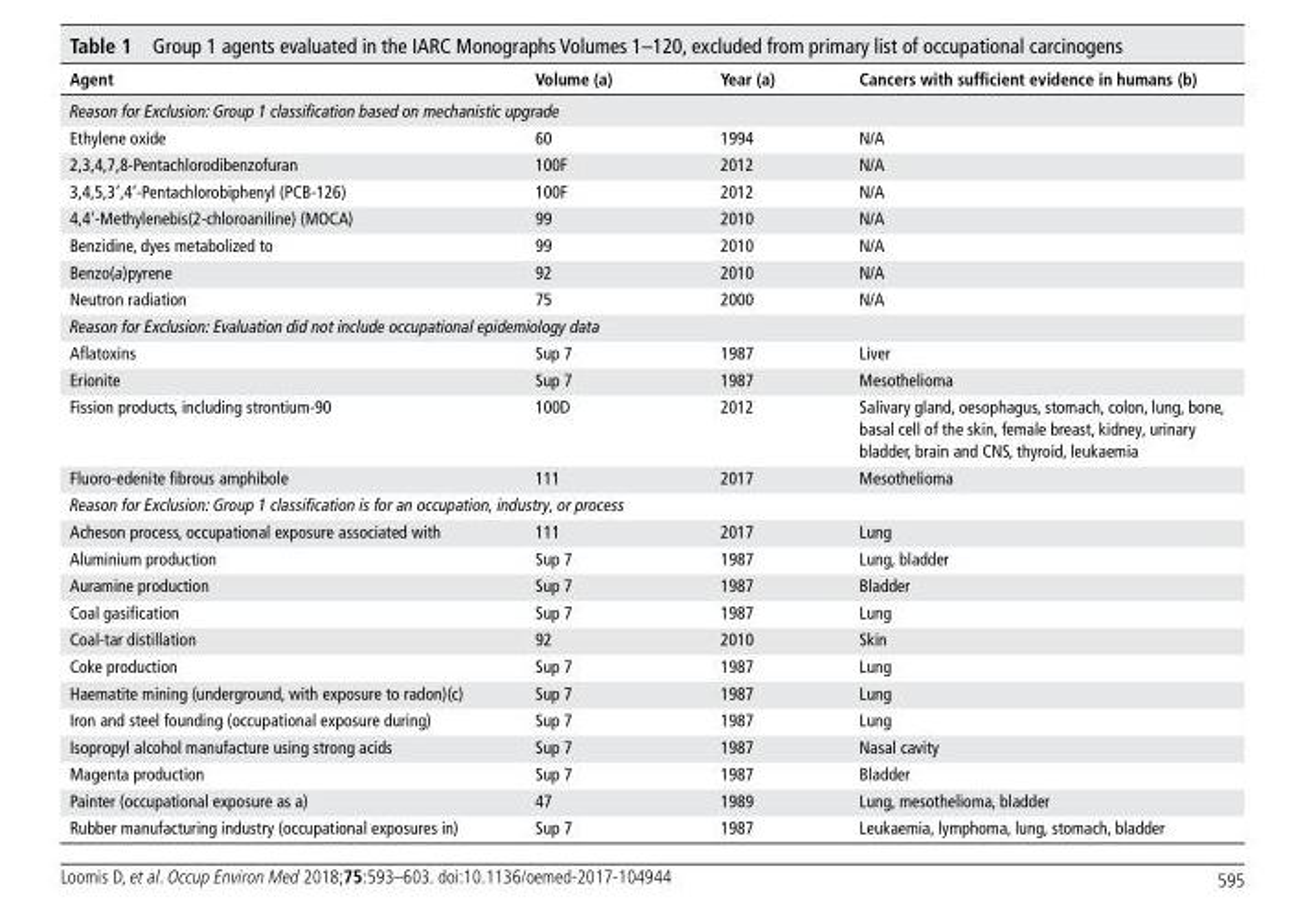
<table><thead><tr><td>Agent</td><td>Volume (a)</td><td>Year (a)</td><td>Cancers with sufficient evidence in humans (b)</td></tr></thead><tbody><tr><td colspan="4">Reason for Exclusion: Group 1 classification based on mechanistic upgrade</td></tr><tr><td>Ethylene oxide</td><td>60</td><td>1994</td><td>N/A</td></tr><tr><td>2,3,4,7,8-Pentachlorodibenzofuran</td><td>100F</td><td>2012</td><td>N/A</td></tr><tr><td>3,4,5,3’,4’-Pentachlorobiphenyl (PCB-126)</td><td>100F</td><td>2012</td><td>N/A</td></tr><tr><td>4,4&#x27;-Methylenebis(2-chloroaniline) (MOCA)</td><td>99</td><td>2010</td><td>N/A</td></tr><tr><td>Benzidine, dyes metabolized to</td><td>99</td><td>2010</td><td>N/A</td></tr><tr><td>Benzo(a)pyrene</td><td>92</td><td>2010</td><td>N/A</td></tr><tr><td>Neutron radiation</td><td>75</td><td>2000</td><td>N/A</td></tr><tr><td colspan="4">Reason for Exclusion: Evaluation did not include occupational epidemiology data</td></tr><tr><td>Aflatoxins</td><td>Sup 7</td><td>1987</td><td>Liver</td></tr><tr><td>Erionite</td><td>Sup 7</td><td>1987</td><td>Mesothelioma</td></tr><tr><td>Fission products, including strontium-90</td><td>100D</td><td>2012</td><td>Salivary gland, oesophagus, stomach, colon, lung, bone, basal cell of the skin, female breast, kidney, urinary bladder, brain and CNS, thyroid, leukaemia</td></tr><tr><td>Fluoro-edenite fibrous amphibole</td><td>111</td><td>2017</td><td>Mesothelioma</td></tr><tr><td colspan="4">Reason for Exclusion: Group 1 classification is for an occupation, industry, or process</td></tr><tr><td>Acheson process, occupational exposure associated with</td><td>111</td><td>2017</td><td>Lung</td></tr><tr><td>Aluminium production</td><td>Sup 7</td><td>1987</td><td>Lung, bladder</td></tr><tr><td>Auramine production</td><td>Sup 7</td><td>1987</td><td>Bladder</td></tr><tr><td>Coal gasification</td><td>Sup 7</td><td>1987</td><td>Lung</td></tr><tr><td>Coal-tar distillation</td><td>92</td><td>2010</td><td>Skin</td></tr><tr><td>Coke production</td><td>Sup 7</td><td>1987</td><td>Lung</td></tr><tr><td>Haematite mining (underground, with exposure to radon)(c)</td><td>Sup 7</td><td>1987</td><td>Lung</td></tr><tr><td>Iron and steel founding (occupational exposure during)</td><td>Sup 7</td><td>1987</td><td>Lung</td></tr><tr><td>Isopropyl alcohol manufacture using strong acids</td><td>Sup 7</td><td>1987</td><td>Nasal cavity</td></tr><tr><td>Magenta production</td><td>Sup 7</td><td>1987</td><td>Bladder</td></tr><tr><td>Painter (occupational exposure as a)</td><td>47</td><td>1989</td><td>Lung, mesothelioma, bladder</td></tr><tr><td>Rubber manufacturing industry (occupational exposures in)</td><td>Sup 7</td><td>1987</td><td>Leukaemia, lymphoma, lung, stomach, bladder</td></tr></tbody></table>